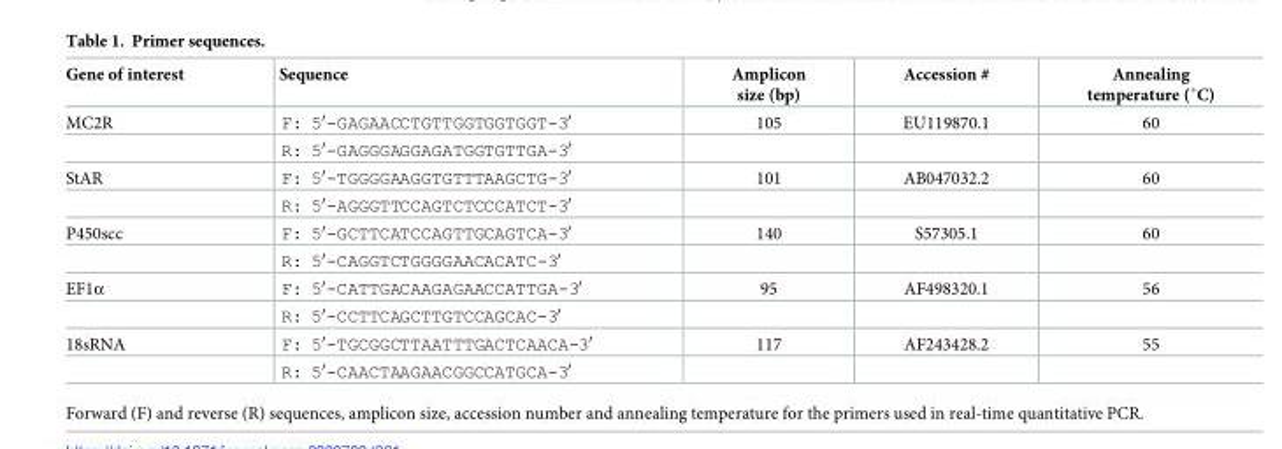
<table><thead><tr><td>Gene of interest</td><td>Sequence</td><td>Amplicon size (bp)</td><td>Accession #</td><td>Annealing temperature (˚C)</td></tr></thead><tbody><tr><td rowspan="2">MC2R</td><td>F: 5′-GAGAACCTGTTGGTGGTGGT-3′</td><td>105</td><td>EU119870.1</td><td>60</td></tr><tr><td>R: 5′-GAGGGAGGAGATGGTGTTGA-3′</td><td></td><td></td><td></td></tr><tr><td rowspan="2">StAR</td><td>F: 5′-TGGGGAAGGTGTTTAAGCTG-3′</td><td>101</td><td>AB047032.2</td><td>60</td></tr><tr><td>R: 5′-AGGGTTCCAGTCTCCCATCT-3′</td><td></td><td></td><td></td></tr><tr><td rowspan="2">P450scc</td><td>F: 5′-GCTTCATCCAGTTGCAGTCA-3′</td><td>140</td><td>S57305.1</td><td>60</td></tr><tr><td>R: 5′-CAGGTCTGGGGAACACATC-3′</td><td></td><td></td><td></td></tr><tr><td rowspan="2">EF1α</td><td>F: 5′-CATTGACAAGAGAACCATTGA-3′</td><td>95</td><td>AF498320.1</td><td>56</td></tr><tr><td>R: 5′-CCTTCAGCTTGTCCAGCAC-3′</td><td></td><td></td><td></td></tr><tr><td rowspan="2">18sRNA</td><td>F: 5′-TGCGGCTTAATTTGACTCAACA-3′</td><td>117</td><td>AF243428.2</td><td>55</td></tr><tr><td>R: 5′-CAACTAAGAACGGCCATGCA-3′</td><td></td><td></td><td></td></tr></tbody></table>